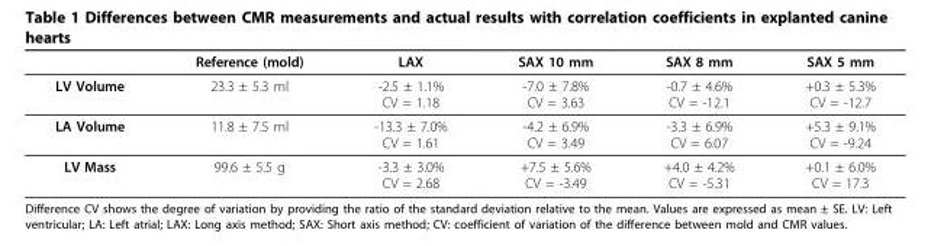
<table><thead><tr><td></td><td>Reference (mold)</td><td>LAX</td><td>SAX 10 mm</td><td>SAX 8 mm</td><td>SAX 5 mm</td></tr></thead><tbody><tr><td>LV Volume</td><td>23.3 ± 5.3 ml</td><td>-2.5 ± 1.1% CV = 1.18</td><td>-7.0 ± 7.8% CV = 3.63</td><td>-0.7 ± 4.6% CV = -12.1</td><td>+0.3 ± 5.3% CV = -12.7</td></tr><tr><td>LA Volume</td><td>11.8 ± 7.5 ml</td><td>-13.3 ± 7.0% CV = 1.61</td><td>-4.2 ± 6.9% CV = 3.49</td><td>-3.3 ± 6.9% CV = 6.07</td><td>+5.3 ± 9.1% CV = -9.24</td></tr><tr><td>LV Mass</td><td>99.6 ± 5.5 g</td><td>-3.3 ± 3.0% CV = 2.68</td><td>+7.5 ± 5.6% CV = -3.49</td><td>+4.0 ± 4.2% CV = -5.31</td><td>+0.1 ± 6.0% CV = 17.3</td></tr></tbody></table>